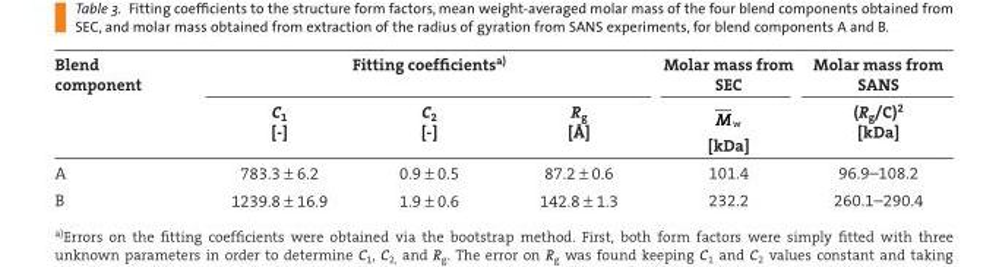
<table><thead><tr><td rowspan="2">Blend component</td><td colspan="3">Fitting coeffi cients a)</td><td rowspan="2">Molar mass from SEC M M w [kDa]</td><td rowspan="2">Molar mass from SANS ( R <sub>g</sub> /C) <sup>2</sup> [kDa]</td></tr><tr><td>C <sub>1</sub> [-]</td><td>C <sub>2</sub> [-]</td><td>R <sub>g</sub> [Å]</td></tr></thead><tbody><tr><td>A</td><td>783.3 ± 6.2</td><td>0.9 ± 0.5</td><td>87.2 ± 0.6</td><td>101.4</td><td>96.9–108.2</td></tr><tr><td>B</td><td>1239.8 ± 16.9</td><td>1.9 ± 0.6</td><td>142.8 ± 1.3</td><td>232.2</td><td>260.1–290.4</td></tr></tbody></table>